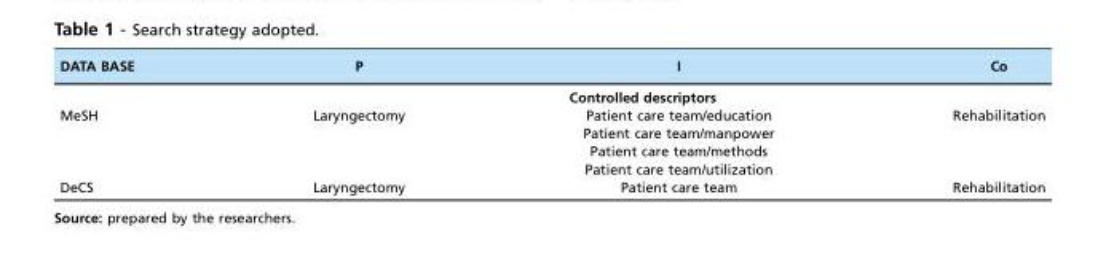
<table><thead><tr><td>DATA BASE</td><td>P</td><td>I</td><td>Co</td></tr></thead><tbody><tr><td></td><td></td><td>Controlled descriptors</td><td></td></tr><tr><td rowspan="4">MeSH</td><td>Laryngectomy</td><td>Patient care team/education</td><td>Rehabilitation</td></tr><tr><td></td><td>Patient care team/manpower</td><td></td></tr><tr><td></td><td>Patient care team/methods</td><td></td></tr><tr><td></td><td>Patient care team/utilization</td><td></td></tr><tr><td>DeCS</td><td>Laryngectomy</td><td>Patient care team</td><td>Rehabilitation</td></tr></tbody></table>